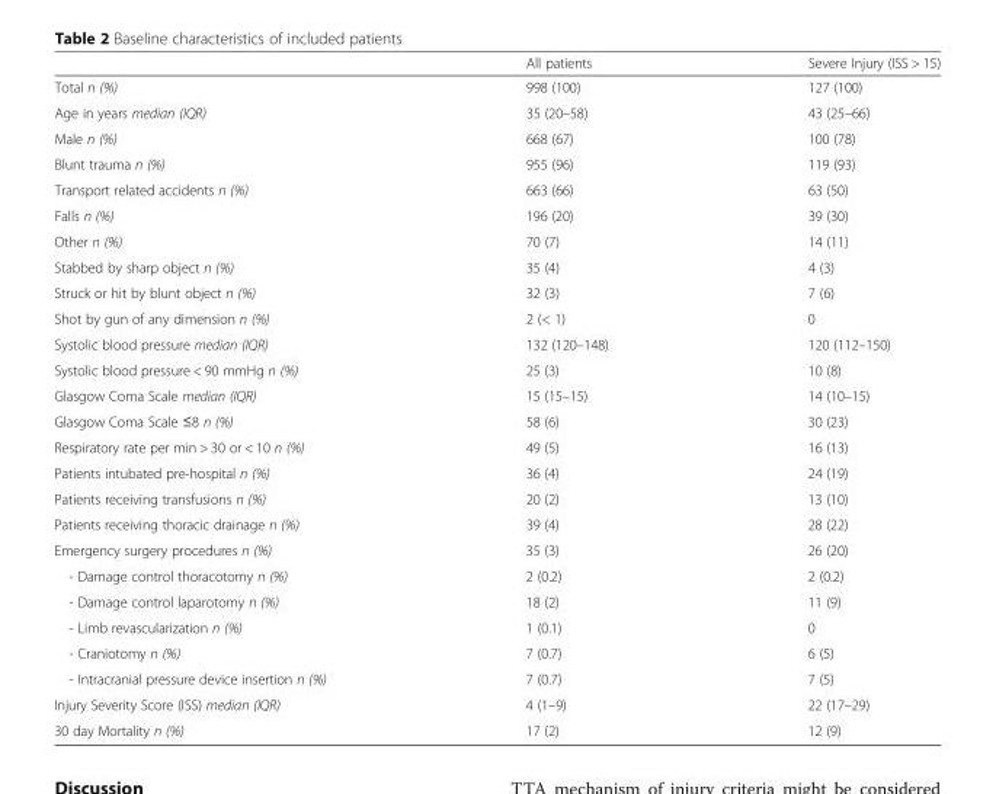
<table><thead><tr><td></td><td>All patients</td><td>Severe Injury (ISS &gt; 15)</td></tr></thead><tbody><tr><td>Total n (%)</td><td>998 (100)</td><td>127 (100)</td></tr><tr><td>Age in years median (IQR)</td><td>35 (20–58)</td><td>43 (25–66)</td></tr><tr><td>Male n (%)</td><td>668 (67)</td><td>100 (78)</td></tr><tr><td>Blunt trauma n (%)</td><td>955 (96)</td><td>119 (93)</td></tr><tr><td>Transport related accidents n (%)</td><td>663 (66)</td><td>63 (50)</td></tr><tr><td>Falls n (%)</td><td>196 (20)</td><td>39 (30)</td></tr><tr><td>Other n (%)</td><td>70 (7)</td><td>14 (11)</td></tr><tr><td>Stabbed by sharp object n (%)</td><td>35 (4)</td><td>4 (3)</td></tr><tr><td>Struck or hit by blunt object n (%)</td><td>32 (3)</td><td>7 (6)</td></tr><tr><td>Shot by gun of any dimension n (%)</td><td>2 (&lt; 1)</td><td>0</td></tr><tr><td>Systolic blood pressure median (IQR)</td><td>132 (120–148)</td><td>120 (112–150)</td></tr><tr><td>Systolic blood pressure &lt; 90 mmHg n (%)</td><td>25 (3)</td><td>10 (8)</td></tr><tr><td>Glasgow Coma Scale median (IQR)</td><td>15 (15–15)</td><td>14 (10–15)</td></tr><tr><td>Glasgow Coma Scale ≤8 n (%)</td><td>58 (6)</td><td>30 (23)</td></tr><tr><td>Respiratory rate per min &gt; 30 or &lt; 10 n (%)</td><td>49 (5)</td><td>16 (13)</td></tr><tr><td>Patients intubated pre-hospital n (%)</td><td>36 (4)</td><td>24 (19)</td></tr><tr><td>Patients receiving transfusions n (%)</td><td>20 (2)</td><td>13 (10)</td></tr><tr><td>Patients receiving thoracic drainage n (%)</td><td>39 (4)</td><td>28 (22)</td></tr><tr><td>Emergency surgery procedures n (%)</td><td>35 (3)</td><td>26 (20)</td></tr><tr><td>- Damage control thoracotomy n (%)</td><td>2 (0.2)</td><td>2 (0.2)</td></tr><tr><td>- Damage control laparotomy n (%)</td><td>18 (2)</td><td>11 (9)</td></tr><tr><td>- Limb revascularization n (%)</td><td>1 (0.1)</td><td>0</td></tr><tr><td>- Craniotomy n (%)</td><td>7 (0.7)</td><td>6 (5)</td></tr><tr><td>- Intracranial pressure device insertion n (%)</td><td>7 (0.7)</td><td>7 (5)</td></tr><tr><td>Injury Severity Score (ISS) median (IQR)</td><td>4 (1–9)</td><td>22 (17–29)</td></tr><tr><td>30 day Mortality n (%)</td><td>17 (2)</td><td>12 (9)</td></tr></tbody></table>